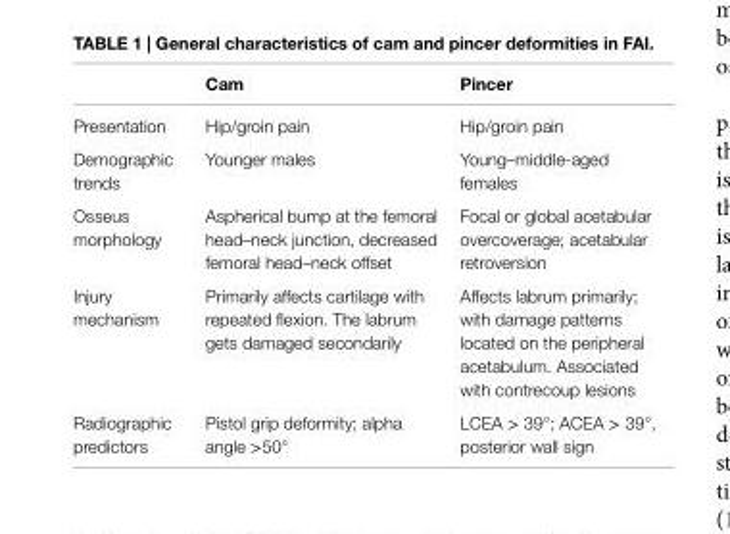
<table><thead><tr><td></td><td>Cam</td><td>Pincer</td></tr></thead><tbody><tr><td>Presentation</td><td>Hip/groin pain</td><td>Hip/groin pain</td></tr><tr><td>Demographic trends</td><td>Younger males</td><td>Young–middle-aged females</td></tr><tr><td>Osseus morphology</td><td>Aspherical bump at the femoral head–neck junction, decreased femoral head–neck offset</td><td>Focal or global acetabular overcoverage; acetabular retroversion</td></tr><tr><td>Injury mechanism</td><td>Primarily affects cartilage with repeated flexion. The labrum gets damaged secondarily</td><td>Affects labrum primarily; with damage patterns located on the peripheral acetabulum. Associated with contrecoup lesions</td></tr><tr><td>Radiographic predictors</td><td>Pistol grip deformity; alpha angle &gt;50°</td><td>LCEA &gt; 39°; ACEA &gt; 39°, posterior wall sign</td></tr></tbody></table>